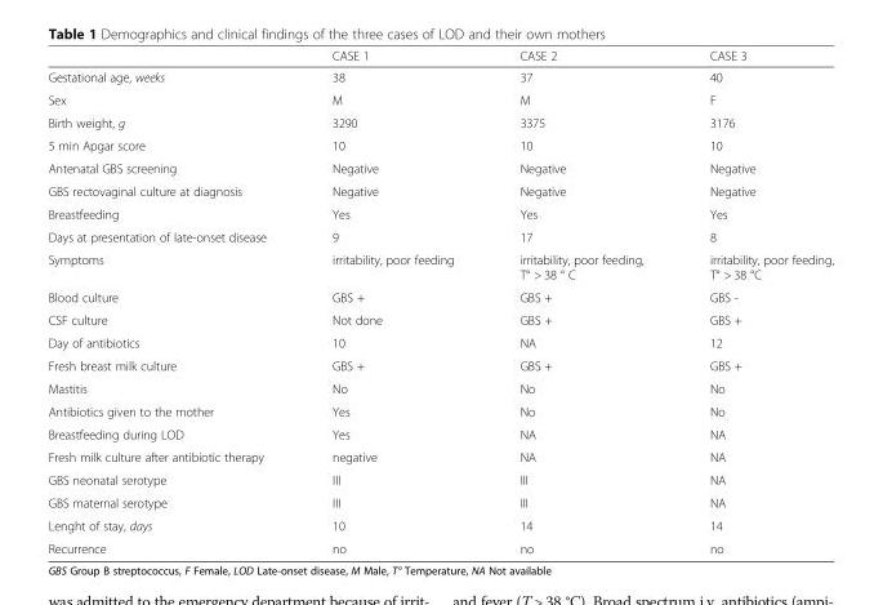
<table><thead><tr><td></td><td>CASE 1</td><td>CASE 2</td><td>CASE 3</td></tr></thead><tbody><tr><td>Gestational age, weeks</td><td>38</td><td>37</td><td>40</td></tr><tr><td>Sex</td><td>M</td><td>M</td><td>F</td></tr><tr><td>Birth weight, g</td><td>3290</td><td>3375</td><td>3176</td></tr><tr><td>5 min Apgar score</td><td>10</td><td>10</td><td>10</td></tr><tr><td>Antenatal GBS screening</td><td>Negative</td><td>Negative</td><td>Negative</td></tr><tr><td>GBS rectovaginal culture at diagnosis</td><td>Negative</td><td>Negative</td><td>Negative</td></tr><tr><td>Breastfeeding</td><td>Yes</td><td>Yes</td><td>Yes</td></tr><tr><td>Days at presentation of late-onset disease</td><td>9</td><td>17</td><td>8</td></tr><tr><td>Symptoms</td><td>irritability, poor feeding</td><td>irritability, poor feeding, T° &gt; 38 ° C</td><td>irritability, poor feeding, T° &gt; 38 °C</td></tr><tr><td>Blood culture</td><td>GBS +</td><td>GBS +</td><td>GBS -</td></tr><tr><td>CSF culture</td><td>Not done</td><td>GBS +</td><td>GBS +</td></tr><tr><td>Day of antibiotics</td><td>10</td><td>NA</td><td>12</td></tr><tr><td>Fresh breast milk culture</td><td>GBS +</td><td>GBS +</td><td>GBS +</td></tr><tr><td>Mastitis</td><td>No</td><td>No</td><td>No</td></tr><tr><td>Antibiotics given to the mother</td><td>Yes</td><td>No</td><td>No</td></tr><tr><td>Breastfeeding during LOD</td><td>Yes</td><td>NA</td><td>NA</td></tr><tr><td>Fresh milk culture after antibiotic therapy</td><td>negative</td><td>NA</td><td>NA</td></tr><tr><td>GBS neonatal serotype</td><td>III</td><td>III</td><td>NA</td></tr><tr><td>GBS maternal serotype</td><td>III</td><td>III</td><td>NA</td></tr><tr><td>Lenght of stay, days</td><td>10</td><td>14</td><td>14</td></tr><tr><td>Recurrence</td><td>no</td><td>no</td><td>no</td></tr></tbody></table>